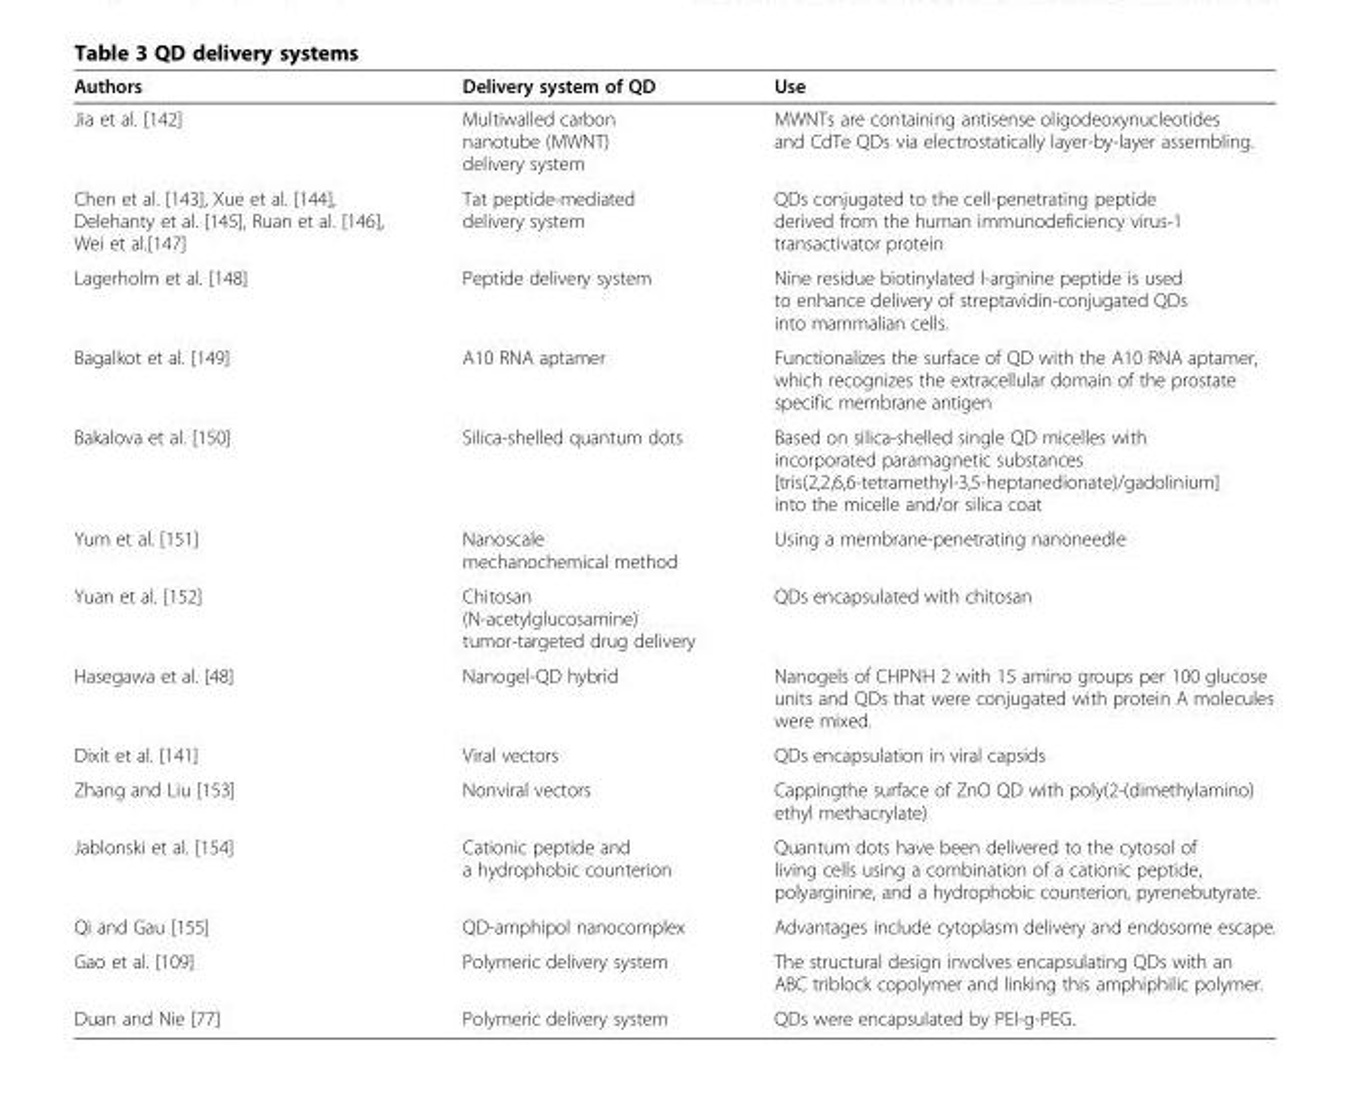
<table><thead><tr><td>Authors</td><td>Delivery system of QD</td><td>Use</td></tr></thead><tbody><tr><td>Jia et al. [142]</td><td>Multiwalled carbon nanotube (MWNT) delivery system</td><td>MWNTs are containing antisense oligodeoxynucleotides and CdTe QDs via electrostatically layer-by-layer assembling.</td></tr><tr><td>Chen et al. [143], Xue et al. [144], Delehanty et al. [145], Ruan et al. [146], Wei et al.[147]</td><td>Tat peptide-mediated delivery system</td><td>QDs conjugated to the cell-penetrating peptide derived from the human immunodeficiency virus-1 transactivator protein</td></tr><tr><td>Lagerholm et al. [148]</td><td>Peptide delivery system</td><td>Nine residue biotinylated l-arginine peptide is used to enhance delivery of streptavidin-conjugated QDs into mammalian cells.</td></tr><tr><td>Bagalkot et al. [149]</td><td>A10 RNA aptamer</td><td>Functionalizes the surface of QD with the A10 RNA aptamer, which recognizes the extracellular domain of the prostate specific membrane antigen</td></tr><tr><td>Bakalova et al. [150]</td><td>Silica-shelled quantum dots</td><td>Based on silica-shelled single QD micelles with incorporated paramagnetic substances [tris(2,2,6,6-tetramethyl-3,5-heptanedionate)/gadolinium] into the micelle and/or silica coat</td></tr><tr><td>Yum et al. [151]</td><td>Nanoscale mechanochemical method</td><td>Using a membrane-penetrating nanoneedle</td></tr><tr><td>Yuan et al. [152]</td><td>Chitosan (N-acetylglucosamine) tumor-targeted drug delivery</td><td>QDs encapsulated with chitosan</td></tr><tr><td>Hasegawa et al. [48]</td><td>Nanogel-QD hybrid</td><td>Nanogels of CHPNH 2 with 15 amino groups per 100 glucose units and QDs that were conjugated with protein A molecules were mixed.</td></tr><tr><td>Dixit et al. [141]</td><td>Viral vectors</td><td>QDs encapsulation in viral capsids</td></tr><tr><td>Zhang and Liu [153]</td><td>Nonviral vectors</td><td>Cappingthe surface of ZnO QD with poly(2-(dimethylamino) ethyl methacrylate)</td></tr><tr><td>Jablonski et al. [154]</td><td>Cationic peptide and a hydrophobic counterion</td><td>Quantum dots have been delivered to the cytosol of living cells using a combination of a cationic peptide, polyarginine, and a hydrophobic counterion, pyrenebutyrate.</td></tr><tr><td>Qi and Gau [155]</td><td>QD-amphipol nanocomplex</td><td>Advantages include cytoplasm delivery and endosome escape.</td></tr><tr><td>Gao et al. [109]</td><td>Polymeric delivery system</td><td>The structural design involves encapsulating QDs with an ABC triblock copolymer and linking this amphiphilic polymer.</td></tr><tr><td>Duan and Nie [77]</td><td>Polymeric delivery system</td><td>QDs were encapsulated by PEI-g-PEG.</td></tr></tbody></table>